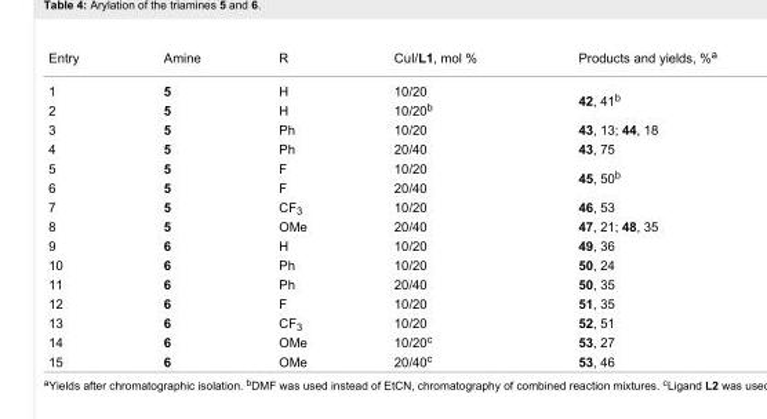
<table><tbody><tr><td>Entry</td><td>Amine</td><td>R</td><td>CuI/L1, mol %</td><td>Products and yields, %<sup>a</sup></td></tr><tr><td>1</td><td>5</td><td>H</td><td>10/20</td><td rowspan="2">42, 41<sup>b</sup></td></tr><tr><td>2</td><td>5</td><td>H</td><td>10/20<sup>b</sup></td></tr><tr><td>3</td><td>5</td><td>Ph</td><td>10/20</td><td>43, 13; 44, 18</td></tr><tr><td>4</td><td>5</td><td>Ph</td><td>20/40</td><td>43, 75</td></tr><tr><td>5</td><td>5</td><td>F</td><td>10/20</td><td rowspan="2">45, 50<sup>b</sup></td></tr><tr><td>6</td><td>5</td><td>F</td><td>20/40</td></tr><tr><td>7</td><td>5</td><td>CF<sub>3</sub></td><td>10/20</td><td>46, 53</td></tr><tr><td>8</td><td>5</td><td>OMe</td><td>20/40</td><td>47, 21; 48, 35</td></tr><tr><td>9</td><td>6</td><td>H</td><td>10/20</td><td>49, 36</td></tr><tr><td>10</td><td>6</td><td>Ph</td><td>10/20</td><td>50, 24</td></tr><tr><td>11</td><td>6</td><td>Ph</td><td>20/40</td><td>50, 35</td></tr><tr><td>12</td><td>6</td><td>F</td><td>10/20</td><td>51, 35</td></tr><tr><td>13</td><td>6</td><td>CF<sub>3</sub></td><td>10/20</td><td>52, 51</td></tr><tr><td>14</td><td>6</td><td>OMe</td><td>10/20<sup>c</sup></td><td>53, 27</td></tr><tr><td>15</td><td>6</td><td>OMe</td><td>20/40<sup>c</sup></td><td>53, 46</td></tr></tbody></table>